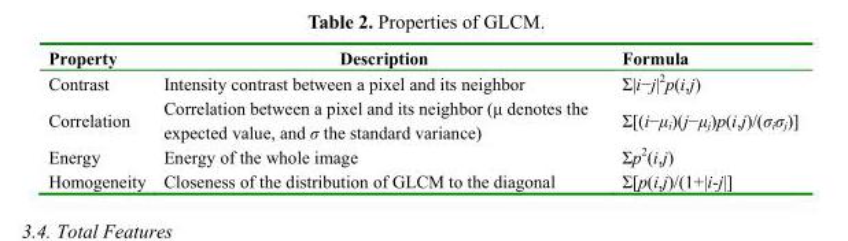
<table><thead><tr><td>Property</td><td>Description</td><td>Formula</td></tr></thead><tbody><tr><td>Contrast</td><td>Intensity contrast between a pixel and its neighbor</td><td>Σ|i−j|<sup>2</sup>p(i,j)</td></tr><tr><td>Correlation</td><td>Correlation between a pixel and its neighbor (μ denotes the expected value, and σ the standard variance)</td><td>Σ[(i−μ<sub>i</sub>)(j−μ<sub>j</sub>)p(i,j)/(σ<sub>i</sub>σ<sub>j</sub>)]</td></tr><tr><td>Energy</td><td>Energy of the whole image</td><td>Σp<sup>2</sup>(i,j)</td></tr><tr><td>Homogeneity</td><td>Closeness of the distribution of GLCM to the diagonal</td><td>Σ[p(i,j)/(1+|i-j|]</td></tr></tbody></table>